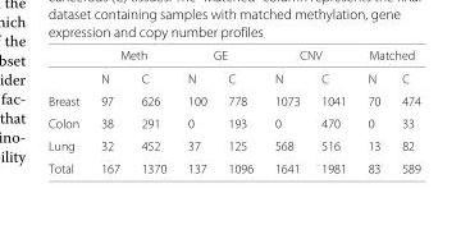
<table><thead><tr><td rowspan="2"></td><td colspan="2">Meth</td><td colspan="2">GE</td><td colspan="2">CNV</td><td colspan="2">Matched</td></tr><tr><td>N</td><td>C</td><td>N</td><td>C</td><td>N</td><td>C</td><td>N</td><td>C</td></tr></thead><tbody><tr><td>Breast</td><td>97</td><td>626</td><td>100</td><td>778</td><td>1073</td><td>1041</td><td>70</td><td>474</td></tr><tr><td>Colon</td><td>38</td><td>291</td><td>0</td><td>193</td><td>0</td><td>470</td><td>0</td><td>33</td></tr><tr><td>Lung</td><td>32</td><td>452</td><td>37</td><td>125</td><td>568</td><td>516</td><td>13</td><td>82</td></tr><tr><td>Total</td><td>167</td><td>1370</td><td>137</td><td>1096</td><td>1641</td><td>1981</td><td>83</td><td>589</td></tr></tbody></table>